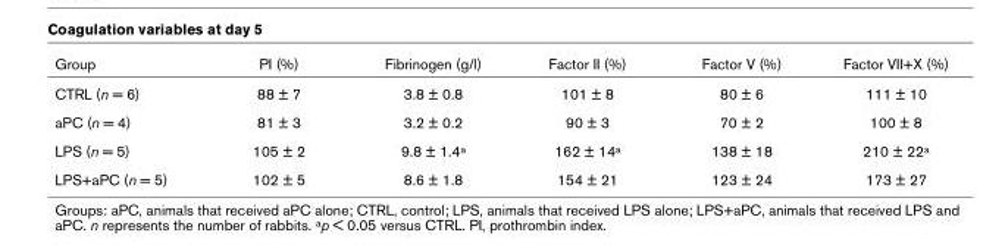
<table><thead><tr><td>Group</td><td>PI (%)</td><td>Fibrinogen (g/l)</td><td>Factor II (%)</td><td>Factor V (%)</td><td>Factor VII+X (%)</td></tr></thead><tbody><tr><td>CTRL (n = 6)</td><td>88 ± 7</td><td>3.8 ± 0.8</td><td>101 ± 8</td><td>80 ± 6</td><td>111 ± 10</td></tr><tr><td>aPC (n = 4)</td><td>81 ± 3</td><td>3.2 ± 0.2</td><td>90 ± 3</td><td>70 ± 2</td><td>100 ± 8</td></tr><tr><td>LPS (n = 5)</td><td>105 ± 2</td><td>9.8 ± 1.4a</td><td>162 ± 14a</td><td>138 ± 18</td><td>210 ± 22a</td></tr><tr><td>LPS+aPC (n = 5)</td><td>102 ± 5</td><td>8.6 ± 1.8</td><td>154 ± 21</td><td>123 ± 24</td><td>173 ± 27</td></tr></tbody></table>